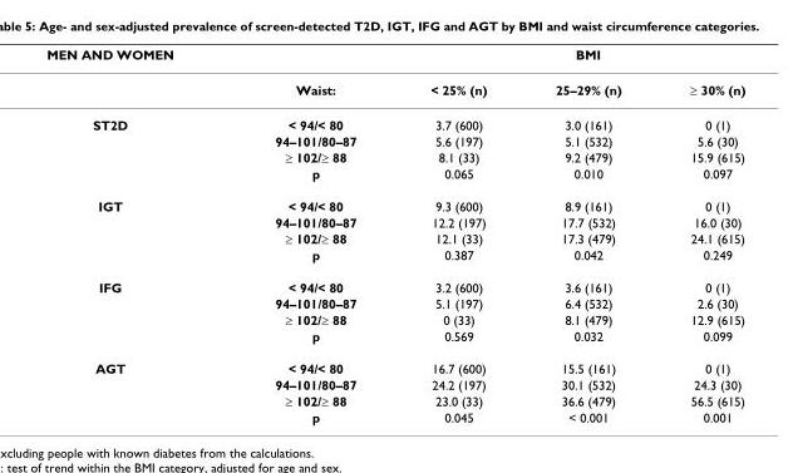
<table><thead><tr><td rowspan="2">MEN AND WOMEN</td><td rowspan="2">Waist:</td><td colspan="3">BMI</td></tr><tr><td>&lt; 25% (n)</td><td>25–29% (n)</td><td>≥ 30% (n)</td></tr></thead><tbody><tr><td rowspan="4">ST2D</td><td>&lt; 94/&lt; 80</td><td>3.7 (600)</td><td>3.0 (161)</td><td>0 (1)</td></tr><tr><td>94–101/80–87</td><td>5.6 (197)</td><td>5.1 (532)</td><td>5.6 (30)</td></tr><tr><td>≥ 102/≥ 88</td><td>8.1 (33)</td><td>9.2 (479)</td><td>15.9 (615)</td></tr><tr><td>p</td><td>0.065</td><td>0.010</td><td>0.097</td></tr><tr><td rowspan="4">IGT</td><td>&lt; 94/&lt; 80</td><td>9.3 (600)</td><td>8.9 (161)</td><td>0 (1)</td></tr><tr><td>94–101/80–87</td><td>12.2 (197)</td><td>17.7 (532)</td><td>16.0 (30)</td></tr><tr><td>≥ 102/≥ 88</td><td>12.1 (33)</td><td>17.3 (479)</td><td>24.1 (615)</td></tr><tr><td>p</td><td>0.387</td><td>0.042</td><td>0.249</td></tr><tr><td rowspan="4">IFG</td><td>&lt; 94/&lt; 80</td><td>3.2 (600)</td><td>3.6 (161)</td><td>0 (1)</td></tr><tr><td>94–101/80–87</td><td>5.1 (197)</td><td>6.4 (532)</td><td>2.6 (30)</td></tr><tr><td>≥ 102/≥ 88</td><td>0 (33)</td><td>8.1 (479)</td><td>12.9 (615)</td></tr><tr><td>p</td><td>0.569</td><td>0.032</td><td>0.099</td></tr><tr><td rowspan="4">AGT</td><td>&lt; 94/&lt; 80</td><td>16.7 (600)</td><td>15.5 (161)</td><td>0 (1)</td></tr><tr><td>94–101/80–87</td><td>24.2 (197)</td><td>30.1 (532)</td><td>24.3 (30)</td></tr><tr><td>≥ 102/≥ 88</td><td>23.0 (33)</td><td>36.6 (479)</td><td>56.5 (615)</td></tr><tr><td>p</td><td>0.045</td><td>&lt; 0.001</td><td>0.001</td></tr></tbody></table>